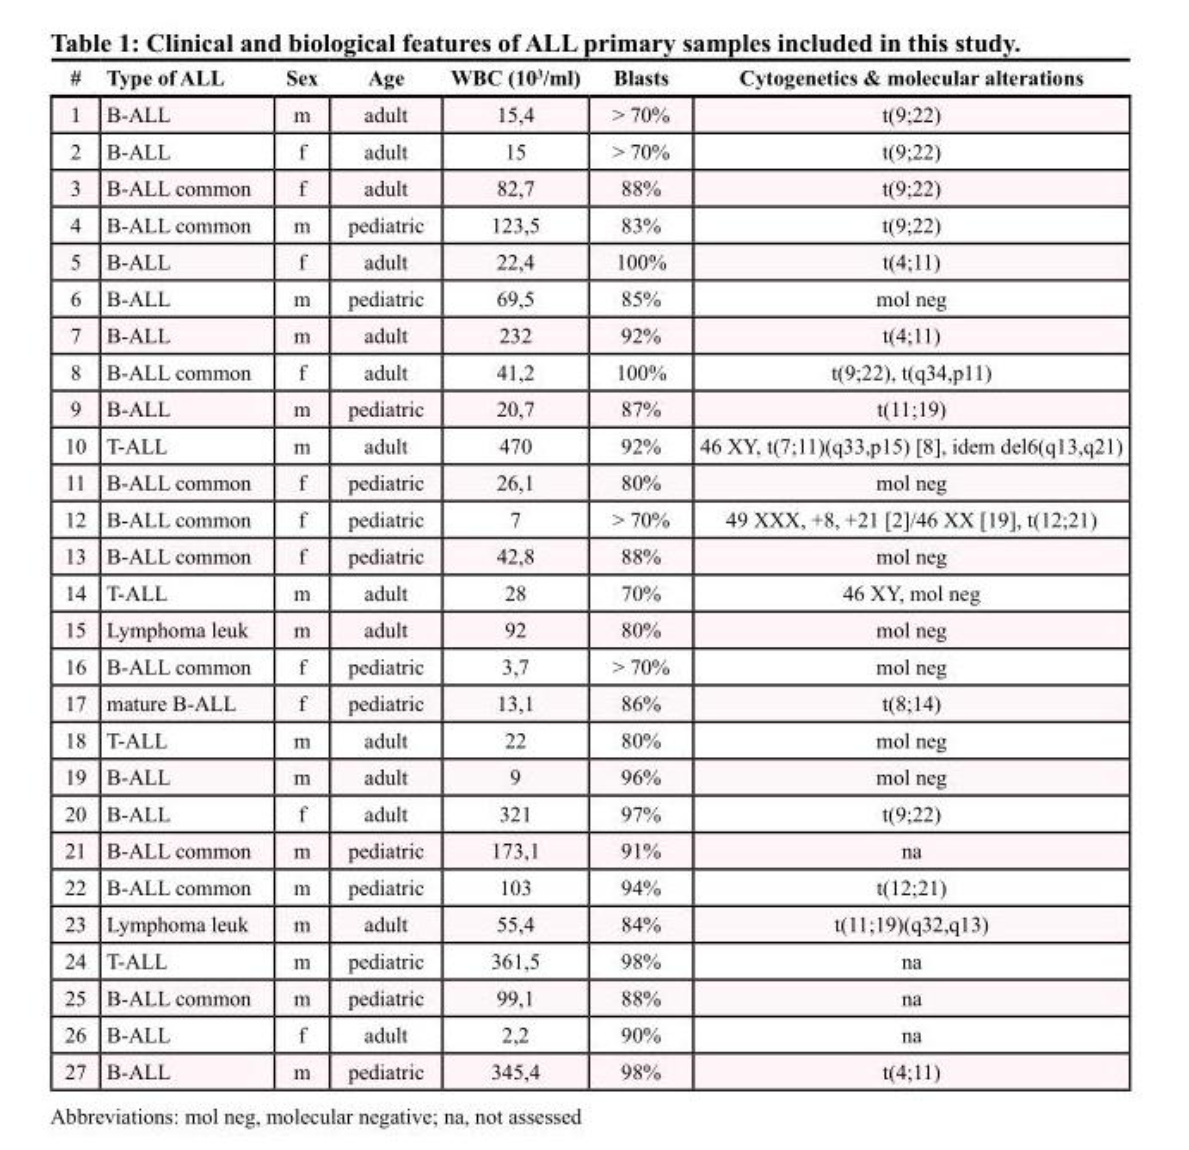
<table><thead><tr><td>#</td><td>Type of ALL</td><td>Sex</td><td>Age</td><td>WBC (10<sup>3</sup>/ml)</td><td>Blasts</td><td>Cytogenetics &amp; molecular alterations</td></tr></thead><tbody><tr><td>1</td><td>B-ALL</td><td>m</td><td>adult</td><td>15,4</td><td>&gt; 70%</td><td>t(9;22)</td></tr><tr><td>2</td><td>B-ALL</td><td>f</td><td>adult</td><td>15</td><td>&gt; 70%</td><td>t(9;22)</td></tr><tr><td>3</td><td>B-ALL common</td><td>f</td><td>adult</td><td>82,7</td><td>88%</td><td>t(9;22)</td></tr><tr><td>4</td><td>B-ALL common</td><td>m</td><td>pediatric</td><td>123,5</td><td>83%</td><td>t(9;22)</td></tr><tr><td>5</td><td>B-ALL</td><td>f</td><td>adult</td><td>22,4</td><td>100%</td><td>t(4;11)</td></tr><tr><td>6</td><td>B-ALL</td><td>m</td><td>pediatric</td><td>69,5</td><td>85%</td><td>mol neg</td></tr><tr><td>7</td><td>B-ALL</td><td>m</td><td>adult</td><td>232</td><td>92%</td><td>t(4;11)</td></tr><tr><td>8</td><td>B-ALL common</td><td>f</td><td>adult</td><td>41,2</td><td>100%</td><td>t(9;22), t(q34,p11)</td></tr><tr><td>9</td><td>B-ALL</td><td>m</td><td>pediatric</td><td>20,7</td><td>87%</td><td>t(11;19)</td></tr><tr><td>10</td><td>T-ALL</td><td>m</td><td>adult</td><td>470</td><td>92%</td><td>46 XY, t(7;11)(q33,p15) [8], idem del6(q13,q21)</td></tr><tr><td>11</td><td>B-ALL common</td><td>f</td><td>pediatric</td><td>26,1</td><td>80%</td><td>mol neg</td></tr><tr><td>12</td><td>B-ALL common</td><td>f</td><td>pediatric</td><td>7</td><td>&gt; 70%</td><td>49 XXX, +8, +21 [2]/46 XX [19], t(12;21)</td></tr><tr><td>13</td><td>B-ALL common</td><td>f</td><td>pediatric</td><td>42,8</td><td>88%</td><td>mol neg</td></tr><tr><td>14</td><td>T-ALL</td><td>m</td><td>adult</td><td>28</td><td>70%</td><td>46 XY, mol neg</td></tr><tr><td>15</td><td>Lymphoma leuk</td><td>m</td><td>adult</td><td>92</td><td>80%</td><td>mol neg</td></tr><tr><td>16</td><td>B-ALL common</td><td>f</td><td>pediatric</td><td>3,7</td><td>&gt; 70%</td><td>mol neg</td></tr><tr><td>17</td><td>mature B-ALL</td><td>f</td><td>pediatric</td><td>13,1</td><td>86%</td><td>t(8;14)</td></tr><tr><td>18</td><td>T-ALL</td><td>m</td><td>adult</td><td>22</td><td>80%</td><td>mol neg</td></tr><tr><td>19</td><td>B-ALL</td><td>m</td><td>adult</td><td>9</td><td>96%</td><td>mol neg</td></tr><tr><td>20</td><td>B-ALL</td><td>f</td><td>adult</td><td>321</td><td>97%</td><td>t(9;22)</td></tr><tr><td>21</td><td>B-ALL common</td><td>m</td><td>pediatric</td><td>173,1</td><td>91%</td><td>na</td></tr><tr><td>22</td><td>B-ALL common</td><td>m</td><td>pediatric</td><td>103</td><td>94%</td><td>t(12;21)</td></tr><tr><td>23</td><td>Lymphoma leuk</td><td>m</td><td>adult</td><td>55,4</td><td>84%</td><td>t(11;19)(q32,q13)</td></tr><tr><td>24</td><td>T-ALL</td><td>m</td><td>pediatric</td><td>361,5</td><td>98%</td><td>na</td></tr><tr><td>25</td><td>B-ALL common</td><td>m</td><td>pediatric</td><td>99,1</td><td>88%</td><td>na</td></tr><tr><td>26</td><td>B-ALL</td><td>f</td><td>adult</td><td>2,2</td><td>90%</td><td>na</td></tr><tr><td>27</td><td>B-ALL</td><td>m</td><td>pediatric</td><td>345,4</td><td>98%</td><td>t(4;11)</td></tr></tbody></table>